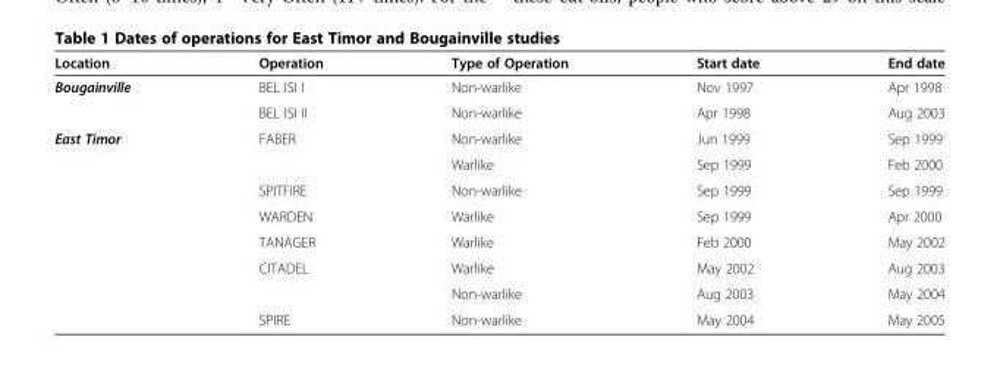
<table><thead><tr><td>Location</td><td>Operation</td><td>Type of Operation</td><td>Start date</td><td>End date</td></tr></thead><tbody><tr><td rowspan="2">Bougainville</td><td>BEL ISI I</td><td>Non-warlike</td><td>Nov 1997</td><td>Apr 1998</td></tr><tr><td>BEL ISI II</td><td>Non-warlike</td><td>Apr 1998</td><td>Aug 2003</td></tr><tr><td rowspan="8">East Timor</td><td>FABER</td><td>Non-warlike</td><td>Jun 1999</td><td>Sep 1999</td></tr><tr><td></td><td>Warlike</td><td>Sep 1999</td><td>Feb 2000</td></tr><tr><td>SPITFIRE</td><td>Non-warlike</td><td>Sep 1999</td><td>Sep 1999</td></tr><tr><td>WARDEN</td><td>Warlike</td><td>Sep 1999</td><td>Apr 2000</td></tr><tr><td>TANAGER</td><td>Warlike</td><td>Feb 2000</td><td>May 2002</td></tr><tr><td>CITADEL</td><td>Warlike</td><td>May 2002</td><td>Aug 2003</td></tr><tr><td></td><td>Non-warlike</td><td>Aug 2003</td><td>May 2004</td></tr><tr><td>SPIRE</td><td>Non-warlike</td><td>May 2004</td><td>May 2005</td></tr></tbody></table>